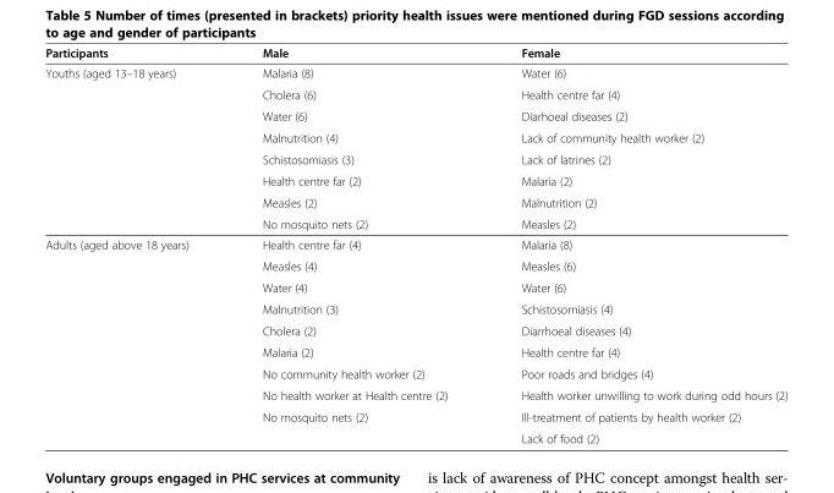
<table><thead><tr><td>Participants</td><td>Male</td><td>Female</td></tr></thead><tbody><tr><td rowspan="8">Youths (aged 13–18 years)</td><td>Malaria (8)</td><td>Water (6)</td></tr><tr><td>Cholera (6)</td><td>Health centre far (4)</td></tr><tr><td>Water (6)</td><td>Diarhoeal diseases (2)</td></tr><tr><td>Malnutrition (4)</td><td>Lack of community health worker (2)</td></tr><tr><td>Schistosomiasis (3)</td><td>Lack of latrines (2)</td></tr><tr><td>Health centre far (2)</td><td>Malaria (2)</td></tr><tr><td>Measles (2)</td><td>Malnutrition (2)</td></tr><tr><td>No mosquito nets (2)</td><td>Measles (2)</td></tr><tr><td rowspan="10">Adults (aged above 18 years)</td><td>Health centre far (4)</td><td>Malaria (8)</td></tr><tr><td>Measles (4)</td><td>Measles (6)</td></tr><tr><td>Water (4)</td><td>Water (6)</td></tr><tr><td>Malnutrition (3)</td><td>Schistosomiasis (4)</td></tr><tr><td>Cholera (2)</td><td>Diarrhoeal diseases (4)</td></tr><tr><td>Malaria (2)</td><td>Health centre far (4)</td></tr><tr><td>No community health worker (2)</td><td>Poor roads and bridges (4)</td></tr><tr><td>No health worker at Health centre (2)</td><td>Health worker unwilling to work during odd hours (2)</td></tr><tr><td>No mosquito nets (2)</td><td>Ill-treatment of patients by health worker (2)</td></tr><tr><td></td><td>Lack of food (2)</td></tr></tbody></table>